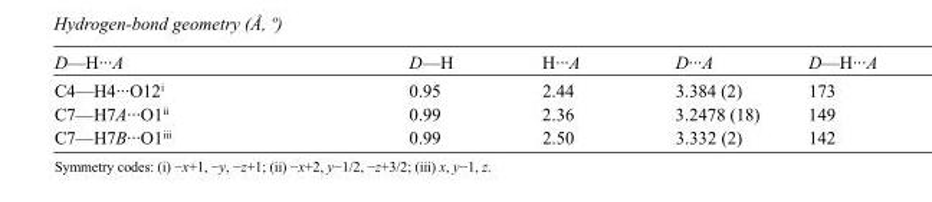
<table><tbody><tr><td>D—H···A</td><td>D—H</td><td>H···A</td><td>D···A</td><td>D—H···A</td></tr><tr><td>C4—H4···O12<sup>i</sup></td><td>0.95</td><td>2.44</td><td>3.384 (2)</td><td>173</td></tr><tr><td>C7—H7A···O1<sup>ii</sup></td><td>0.99</td><td>2.36</td><td>3.2478 (18)</td><td>149</td></tr><tr><td>C7—H7B···O1<sup>iii</sup></td><td>0.99</td><td>2.50</td><td>3.332 (2)</td><td>142</td></tr></tbody></table>